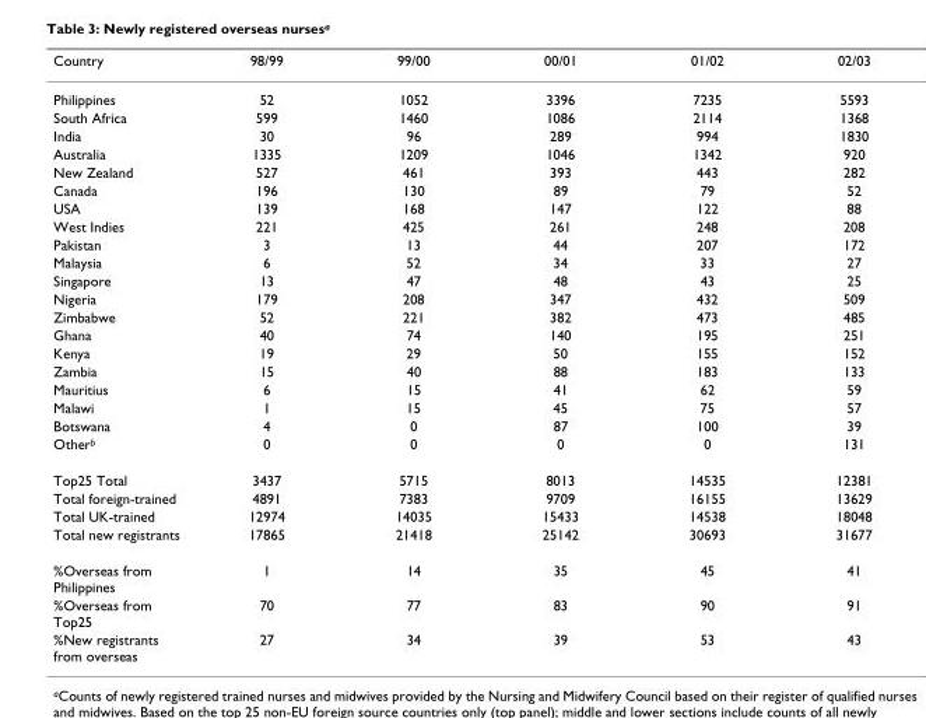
<table><thead><tr><td>Country</td><td>98/99</td><td>99/00</td><td>00/01</td><td>01/02</td><td>02/03</td></tr></thead><tbody><tr><td>Philippines</td><td>52</td><td>1052</td><td>3396</td><td>7235</td><td>5593</td></tr><tr><td>South Africa</td><td>599</td><td>1460</td><td>1086</td><td>2114</td><td>1368</td></tr><tr><td>India</td><td>30</td><td>96</td><td>289</td><td>994</td><td>1830</td></tr><tr><td>Australia</td><td>1335</td><td>1209</td><td>1046</td><td>1342</td><td>920</td></tr><tr><td>New Zealand</td><td>527</td><td>461</td><td>393</td><td>443</td><td>282</td></tr><tr><td>Canada</td><td>196</td><td>130</td><td>89</td><td>79</td><td>52</td></tr><tr><td>USA</td><td>139</td><td>168</td><td>147</td><td>122</td><td>88</td></tr><tr><td>West Indies</td><td>221</td><td>425</td><td>261</td><td>248</td><td>208</td></tr><tr><td>Pakistan</td><td>3</td><td>13</td><td>44</td><td>207</td><td>172</td></tr><tr><td>Malaysia</td><td>6</td><td>52</td><td>34</td><td>33</td><td>27</td></tr><tr><td>Singapore</td><td>13</td><td>47</td><td>48</td><td>43</td><td>25</td></tr><tr><td>Nigeria</td><td>179</td><td>208</td><td>347</td><td>432</td><td>509</td></tr><tr><td>Zimbabwe</td><td>52</td><td>221</td><td>382</td><td>473</td><td>485</td></tr><tr><td>Ghana</td><td>40</td><td>74</td><td>140</td><td>195</td><td>251</td></tr><tr><td>Kenya</td><td>19</td><td>29</td><td>50</td><td>155</td><td>152</td></tr><tr><td>Zambia</td><td>15</td><td>40</td><td>88</td><td>183</td><td>133</td></tr><tr><td>Mauritius</td><td>6</td><td>15</td><td>41</td><td>62</td><td>59</td></tr><tr><td>Malawi</td><td>1</td><td>15</td><td>45</td><td>75</td><td>57</td></tr><tr><td>Botswana</td><td>4</td><td>0</td><td>87</td><td>100</td><td>39</td></tr><tr><td>Other<sup>b</sup></td><td>0</td><td>0</td><td>0</td><td>0</td><td>131</td></tr><tr><td>Top25 Total</td><td>3437</td><td>5715</td><td>8013</td><td>14535</td><td>12381</td></tr><tr><td>Total foreign-trained</td><td>4891</td><td>7383</td><td>9709</td><td>16155</td><td>13629</td></tr><tr><td>Total UK-trained</td><td>12974</td><td>14035</td><td>15433</td><td>14538</td><td>18048</td></tr><tr><td>Total new registrants</td><td>17865</td><td>21418</td><td>25142</td><td>30693</td><td>31677</td></tr><tr><td>%Overseas from Philippines</td><td>1</td><td>14</td><td>35</td><td>45</td><td>41</td></tr><tr><td>%Overseas from Top25</td><td>70</td><td>77</td><td>83</td><td>90</td><td>91</td></tr><tr><td>%New registrants from overseas</td><td>27</td><td>34</td><td>39</td><td>53</td><td>43</td></tr></tbody></table>